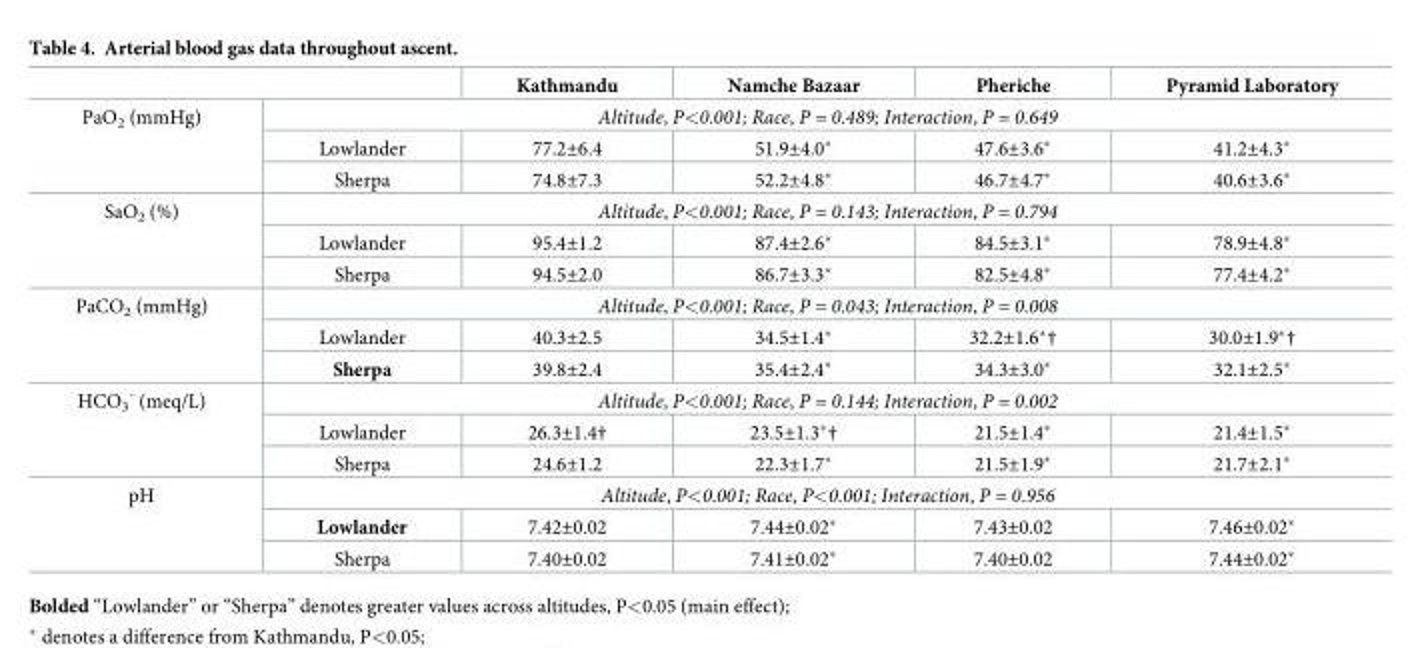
<table><thead><tr><td></td><td></td><td>Kathmandu</td><td>Namche Bazaar</td><td>Pheriche</td><td>Pyramid Laboratory</td></tr></thead><tbody><tr><td rowspan="3">PaO<sub>2</sub> (mmHg)</td><td colspan="5">Altitude, P&lt;0.001; Race, P = 0.489; Interaction, P = 0.649</td></tr><tr><td>Lowlander</td><td>77.2±6.4</td><td>51.9±4.0*</td><td>47.6±3.6*</td><td>41.2±4.3*</td></tr><tr><td>Sherpa</td><td>74.8±7.3</td><td>52.2±4.8*</td><td>46.7±4.7*</td><td>40.6±3.6*</td></tr><tr><td rowspan="3">SaO<sub>2</sub> (%)</td><td colspan="5">Altitude, P&lt;0.001; Race, P = 0.143; Interaction, P = 0.794</td></tr><tr><td>Lowlander</td><td>95.4±1.2</td><td>87.4±2.6*</td><td>84.5±3.1*</td><td>78.9±4.8*</td></tr><tr><td>Sherpa</td><td>94.5±2.0</td><td>86.7±3.3*</td><td>82.5±4.8*</td><td>77.4±4.2*</td></tr><tr><td rowspan="3">PaCO<sub>2</sub> (mmHg)</td><td colspan="5">Altitude, P&lt;0.001; Race, P = 0.043; Interaction, P = 0.008</td></tr><tr><td>Lowlander</td><td>40.3±2.5</td><td>34.5±1.4*</td><td>32.2±1.6*†</td><td>30.0±1.9*†</td></tr><tr><td>Sherpa</td><td>39.8±2.4</td><td>35.4±2.4*</td><td>34.3±3.0*</td><td>32.1±2.5*</td></tr><tr><td rowspan="3">HCO<sub>3</sub> <sup>-</sup> (meq/L)</td><td colspan="5">Altitude, P&lt;0.001; Race, P = 0.144; Interaction, P = 0.002</td></tr><tr><td>Lowlander</td><td>26.3±1.4†</td><td>23.5±1.3*†</td><td>21.5±1.4*</td><td>21.4±1.5*</td></tr><tr><td>Sherpa</td><td>24.6±1.2</td><td>22.3±1.7*</td><td>21.5±1.9*</td><td>21.7±2.1*</td></tr><tr><td rowspan="3">pH</td><td colspan="5">Altitude, P&lt;0.001; Race, P&lt;0.001; Interaction, P = 0.956</td></tr><tr><td>Lowlander</td><td>7.42±0.02</td><td>7.44±0.02*</td><td>7.43±0.02</td><td>7.46±0.02*</td></tr><tr><td>Sherpa</td><td>7.40±0.02</td><td>7.41±0.02*</td><td>7.40±0.02</td><td>7.44±0.02*</td></tr></tbody></table>